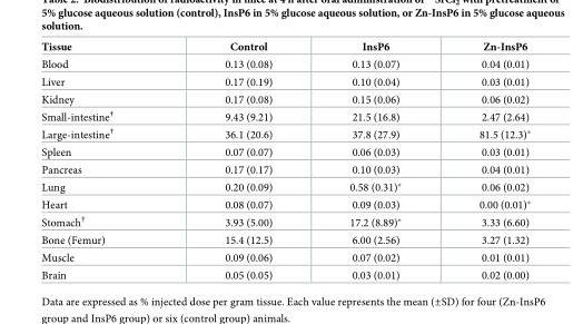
<table><thead><tr><td>Tissue</td><td>Control</td><td>InsP6</td><td>Zn-InsP6</td></tr></thead><tbody><tr><td>Blood</td><td>0.13 (0.08)</td><td>0.13 (0.07)</td><td>0.04 (0.01)</td></tr><tr><td>Liver</td><td>0.17 (0.19)</td><td>0.10 (0.04)</td><td>0.03 (0.01)</td></tr><tr><td>Kidney</td><td>0.17 (0.08)</td><td>0.15 (0.06)</td><td>0.06 (0.02)</td></tr><tr><td>Small-intestine<sup>†</sup></td><td>9.43 (9.21)</td><td>21.5 (16.8)</td><td>2.47 (2.64)</td></tr><tr><td>Large-intestine<sup>†</sup></td><td>36.1 (20.6)</td><td>37.8 (27.9)</td><td>81.5 (12.3)*</td></tr><tr><td>Spleen</td><td>0.07 (0.07)</td><td>0.06 (0.03)</td><td>0.03 (0.01)</td></tr><tr><td>Pancreas</td><td>0.17 (0.17)</td><td>0.10 (0.03)</td><td>0.04 (0.01)</td></tr><tr><td>Lung</td><td>0.20 (0.09)</td><td>0.58 (0.31)*</td><td>0.06 (0.02)</td></tr><tr><td>Heart</td><td>0.08 (0.07)</td><td>0.09 (0.03)</td><td>0.00 (0.01)*</td></tr><tr><td>Stomach<sup>†</sup></td><td>3.93 (5.00)</td><td>17.2 (8.89)*</td><td>3.33 (6.60)</td></tr><tr><td>Bone (Femur)</td><td>15.4 (12.5)</td><td>6.00 (2.56)</td><td>3.27 (1.32)</td></tr><tr><td>Muscle</td><td>0.09 (0.06)</td><td>0.07 (0.02)</td><td>0.01 (0.01)</td></tr><tr><td>Brain</td><td>0.05 (0.05)</td><td>0.03 (0.01)</td><td>0.02 (0.00)</td></tr></tbody></table>